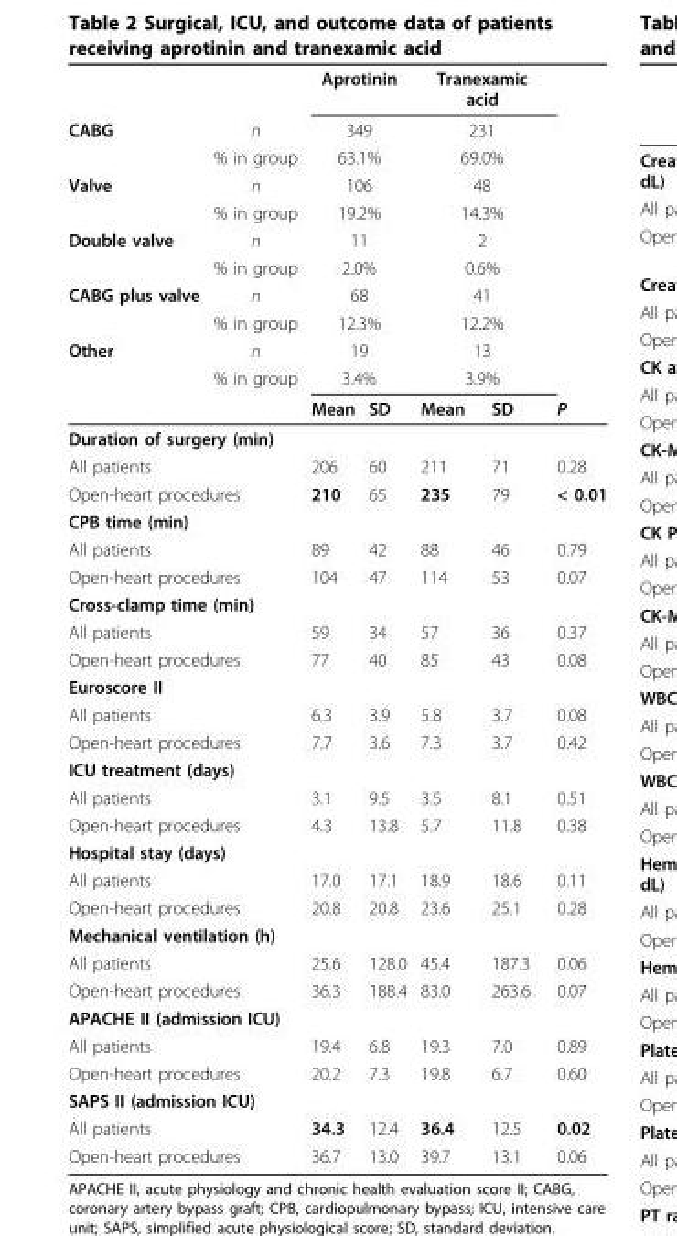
<table><thead><tr><td rowspan="12">CABG Valve Double valve CABG plus valve Other</td><td rowspan="12">n % in group n % in group n % in group n % in group n % in group</td><td rowspan="11" colspan="2">Aprotinin 349 63.1% 106 19.2% 11 2.0% 68 12.3% 19 3.4%</td><td rowspan="11" colspan="2">Tranexamic acid 231 69.0% 48 14.3% 2 0.6% 41 12.2% 13 3.9%</td><td rowspan="12">P</td></tr><tr></tr><tr></tr><tr></tr><tr></tr><tr></tr><tr></tr><tr></tr><tr></tr><tr></tr><tr></tr><tr><td>Mean</td><td>SD</td><td>Mean</td><td>SD</td></tr></thead><tbody><tr><td colspan="7">Duration of surgery (min)</td></tr><tr><td colspan="2">All patients</td><td>206</td><td>60</td><td>211</td><td>71</td><td>0.28</td></tr><tr><td colspan="2">Open-heart procedures</td><td>210</td><td>65</td><td>235</td><td>79</td><td>&lt; 0.01</td></tr><tr><td colspan="7">CPB time (min)</td></tr><tr><td colspan="2">All patients</td><td>89</td><td>42</td><td>88</td><td>46</td><td>0.79</td></tr><tr><td colspan="2">Open-heart procedures</td><td>104</td><td>47</td><td>114</td><td>53</td><td>0.07</td></tr><tr><td colspan="7">Cross-clamp time (min)</td></tr><tr><td colspan="2">All patients</td><td>59</td><td>34</td><td>57</td><td>36</td><td>0.37</td></tr><tr><td colspan="2">Open-heart procedures</td><td>77</td><td>40</td><td>85</td><td>43</td><td>0.08</td></tr><tr><td colspan="7">Euroscore II</td></tr><tr><td colspan="2">All patients</td><td>6.3</td><td>3.9</td><td>5.8</td><td>3.7</td><td>0.08</td></tr><tr><td colspan="2">Open-heart procedures</td><td>7.7</td><td>3.6</td><td>7.3</td><td>3.7</td><td>0.42</td></tr><tr><td colspan="7">ICU treatment (days)</td></tr><tr><td colspan="2">All patients</td><td>3.1</td><td>9.5</td><td>3.5</td><td>8.1</td><td>0.51</td></tr><tr><td colspan="2">Open-heart procedures</td><td>4.3</td><td>13.8</td><td>5.7</td><td>11.8</td><td>0.38</td></tr><tr><td colspan="7">Hospital stay (days)</td></tr><tr><td colspan="2">All patients</td><td>17.0</td><td>17.1</td><td>18.9</td><td>18.6</td><td>0.11</td></tr><tr><td colspan="2">Open-heart procedures</td><td>20.8</td><td>20.8</td><td>23.6</td><td>25.1</td><td>0.28</td></tr><tr><td colspan="7">Mechanical ventilation (h)</td></tr><tr><td colspan="2">All patients</td><td>25.6</td><td>128.0</td><td>45.4</td><td>187.3</td><td>0.06</td></tr><tr><td colspan="2">Open-heart procedures</td><td>36.3</td><td>188.4</td><td>83.0</td><td>263.6</td><td>0.07</td></tr><tr><td colspan="7">APACHE II (admission ICU)</td></tr><tr><td colspan="2">All patients</td><td>19.4</td><td>6.8</td><td>19.3</td><td>7.0</td><td>0.89</td></tr><tr><td colspan="2">Open-heart procedures</td><td>20.2</td><td>7.3</td><td>19.8</td><td>6.7</td><td>0.60</td></tr><tr><td colspan="7">SAPS II (admission ICU)</td></tr><tr><td colspan="2">All patients</td><td>34.3</td><td>12.4</td><td>36.4</td><td>12.5</td><td>0.02</td></tr><tr><td colspan="2">Open-heart procedures</td><td>36.7</td><td>13.0</td><td>39.7</td><td>13.1</td><td>0.06</td></tr></tbody></table>